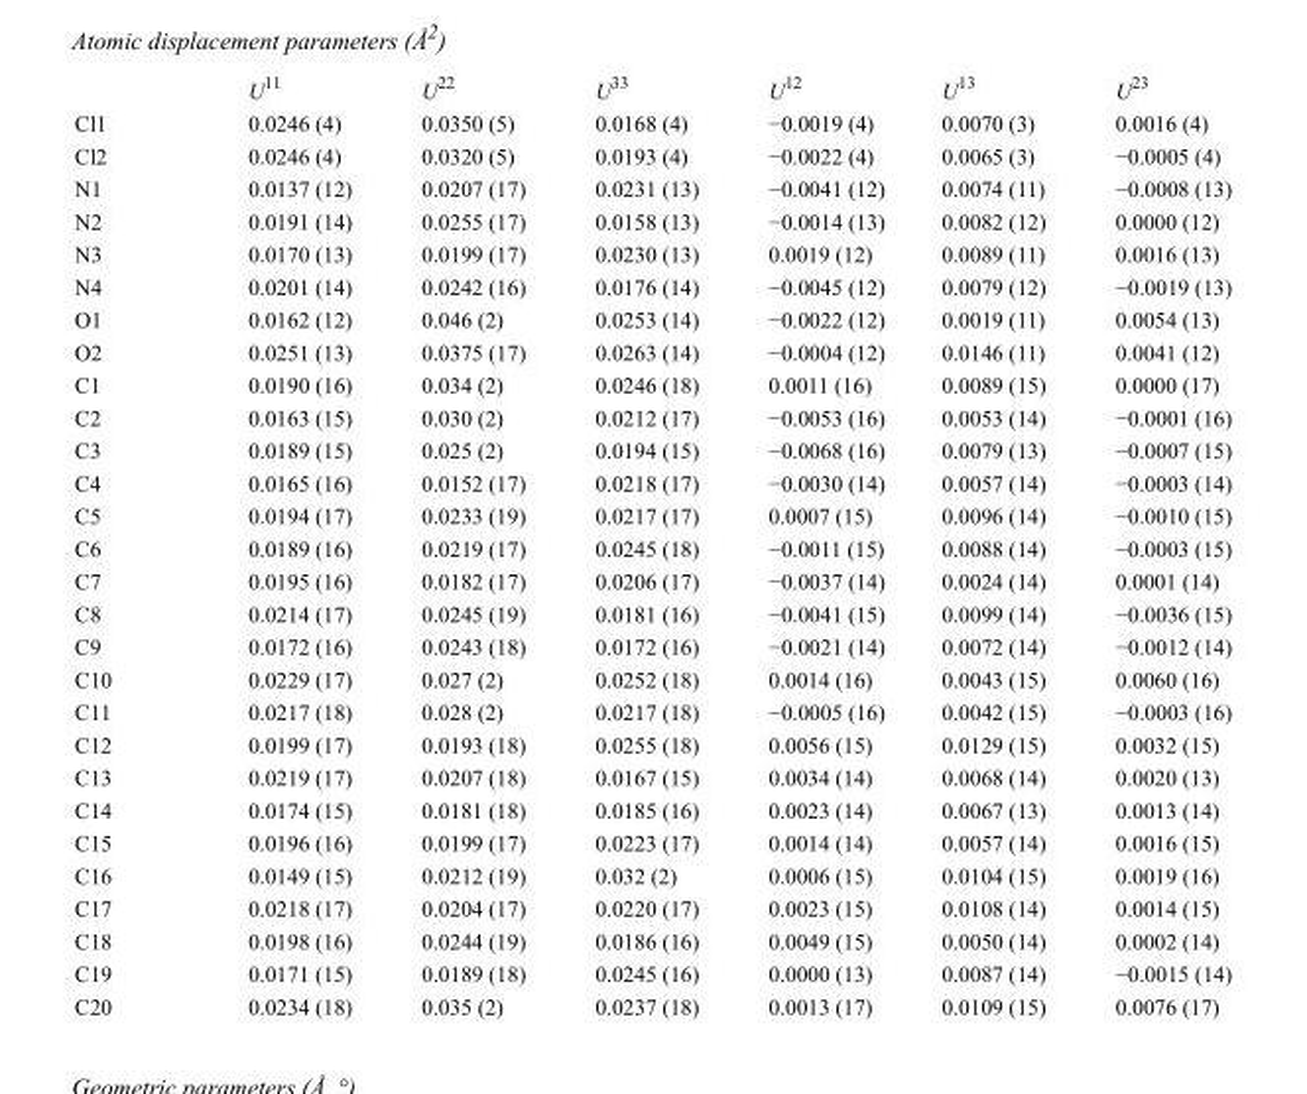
<table><thead><tr><td></td><td>U<sup>11</sup></td><td>U<sup>22</sup></td><td>U<sup>33</sup></td><td>U<sup>12</sup></td><td>U<sup>13</sup></td><td>U<sup>23</sup></td></tr></thead><tbody><tr><td>Cl1</td><td>0.0246 (4)</td><td>0.0350 (5)</td><td>0.0168 (4)</td><td>−0.0019 (4)</td><td>0.0070 (3)</td><td>0.0016 (4)</td></tr><tr><td>Cl2</td><td>0.0246 (4)</td><td>0.0320 (5)</td><td>0.0193 (4)</td><td>−0.0022 (4)</td><td>0.0065 (3)</td><td>−0.0005 (4)</td></tr><tr><td>N1</td><td>0.0137 (12)</td><td>0.0207 (17)</td><td>0.0231 (13)</td><td>−0.0041 (12)</td><td>0.0074 (11)</td><td>−0.0008 (13)</td></tr><tr><td>N2</td><td>0.0191 (14)</td><td>0.0255 (17)</td><td>0.0158 (13)</td><td>−0.0014 (13)</td><td>0.0082 (12)</td><td>0.0000 (12)</td></tr><tr><td>N3</td><td>0.0170 (13)</td><td>0.0199 (17)</td><td>0.0230 (13)</td><td>0.0019 (12)</td><td>0.0089 (11)</td><td>0.0016 (13)</td></tr><tr><td>N4</td><td>0.0201 (14)</td><td>0.0242 (16)</td><td>0.0176 (14)</td><td>−0.0045 (12)</td><td>0.0079 (12)</td><td>−0.0019 (13)</td></tr><tr><td>O1</td><td>0.0162 (12)</td><td>0.046 (2)</td><td>0.0253 (14)</td><td>−0.0022 (12)</td><td>0.0019 (11)</td><td>0.0054 (13)</td></tr><tr><td>O2</td><td>0.0251 (13)</td><td>0.0375 (17)</td><td>0.0263 (14)</td><td>−0.0004 (12)</td><td>0.0146 (11)</td><td>0.0041 (12)</td></tr><tr><td>C1</td><td>0.0190 (16)</td><td>0.034 (2)</td><td>0.0246 (18)</td><td>0.0011 (16)</td><td>0.0089 (15)</td><td>0.0000 (17)</td></tr><tr><td>C2</td><td>0.0163 (15)</td><td>0.030 (2)</td><td>0.0212 (17)</td><td>−0.0053 (16)</td><td>0.0053 (14)</td><td>−0.0001 (16)</td></tr><tr><td>C3</td><td>0.0189 (15)</td><td>0.025 (2)</td><td>0.0194 (15)</td><td>−0.0068 (16)</td><td>0.0079 (13)</td><td>−0.0007 (15)</td></tr><tr><td>C4</td><td>0.0165 (16)</td><td>0.0152 (17)</td><td>0.0218 (17)</td><td>−0.0030 (14)</td><td>0.0057 (14)</td><td>−0.0003 (14)</td></tr><tr><td>C5</td><td>0.0194 (17)</td><td>0.0233 (19)</td><td>0.0217 (17)</td><td>0.0007 (15)</td><td>0.0096 (14)</td><td>−0.0010 (15)</td></tr><tr><td>C6</td><td>0.0189 (16)</td><td>0.0219 (17)</td><td>0.0245 (18)</td><td>−0.0011 (15)</td><td>0.0088 (14)</td><td>−0.0003 (15)</td></tr><tr><td>C7</td><td>0.0195 (16)</td><td>0.0182 (17)</td><td>0.0206 (17)</td><td>−0.0037 (14)</td><td>0.0024 (14)</td><td>0.0001 (14)</td></tr><tr><td>C8</td><td>0.0214 (17)</td><td>0.0245 (19)</td><td>0.0181 (16)</td><td>−0.0041 (15)</td><td>0.0099 (14)</td><td>−0.0036 (15)</td></tr><tr><td>C9</td><td>0.0172 (16)</td><td>0.0243 (18)</td><td>0.0172 (16)</td><td>−0.0021 (14)</td><td>0.0072 (14)</td><td>−0.0012 (14)</td></tr><tr><td>C10</td><td>0.0229 (17)</td><td>0.027 (2)</td><td>0.0252 (18)</td><td>0.0014 (16)</td><td>0.0043 (15)</td><td>0.0060 (16)</td></tr><tr><td>C11</td><td>0.0217 (18)</td><td>0.028 (2)</td><td>0.0217 (18)</td><td>−0.0005 (16)</td><td>0.0042 (15)</td><td>−0.0003 (16)</td></tr><tr><td>C12</td><td>0.0199 (17)</td><td>0.0193 (18)</td><td>0.0255 (18)</td><td>0.0056 (15)</td><td>0.0129 (15)</td><td>0.0032 (15)</td></tr><tr><td>C13</td><td>0.0219 (17)</td><td>0.0207 (18)</td><td>0.0167 (15)</td><td>0.0034 (14)</td><td>0.0068 (14)</td><td>0.0020 (13)</td></tr><tr><td>C14</td><td>0.0174 (15)</td><td>0.0181 (18)</td><td>0.0185 (16)</td><td>0.0023 (14)</td><td>0.0067 (13)</td><td>0.0013 (14)</td></tr><tr><td>C15</td><td>0.0196 (16)</td><td>0.0199 (17)</td><td>0.0223 (17)</td><td>0.0014 (14)</td><td>0.0057 (14)</td><td>0.0016 (15)</td></tr><tr><td>C16</td><td>0.0149 (15)</td><td>0.0212 (19)</td><td>0.032 (2)</td><td>0.0006 (15)</td><td>0.0104 (15)</td><td>0.0019 (16)</td></tr><tr><td>C17</td><td>0.0218 (17)</td><td>0.0204 (17)</td><td>0.0220 (17)</td><td>0.0023 (15)</td><td>0.0108 (14)</td><td>0.0014 (15)</td></tr><tr><td>C18</td><td>0.0198 (16)</td><td>0.0244 (19)</td><td>0.0186 (16)</td><td>0.0049 (15)</td><td>0.0050 (14)</td><td>0.0002 (14)</td></tr><tr><td>C19</td><td>0.0171 (15)</td><td>0.0189 (18)</td><td>0.0245 (16)</td><td>0.0000 (13)</td><td>0.0087 (14)</td><td>−0.0015 (14)</td></tr><tr><td>C20</td><td>0.0234 (18)</td><td>0.035 (2)</td><td>0.0237 (18)</td><td>0.0013 (17)</td><td>0.0109 (15)</td><td>0.0076 (17)</td></tr></tbody></table>